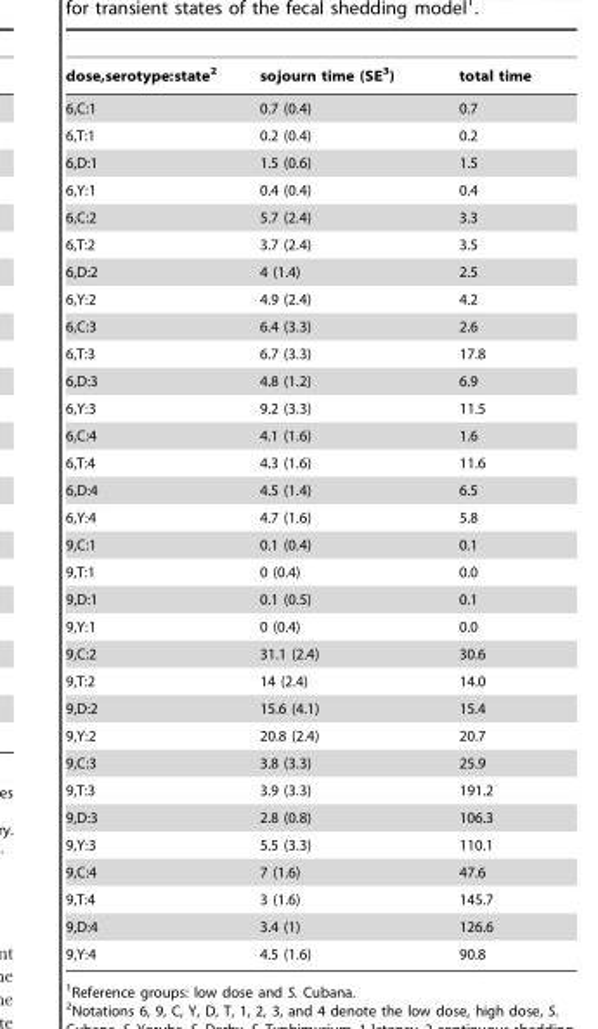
<table><thead><tr><td>dose,serotype:state<sup>2</sup></td><td>sojourn time (SE<sup>3</sup>)</td><td>total time</td></tr></thead><tbody><tr><td>6,C:1</td><td>0.7 (0.4)</td><td>0.7</td></tr><tr><td>6,T:1</td><td>0.2 (0.4)</td><td>0.2</td></tr><tr><td>6,D:1</td><td>1.5 (0.6)</td><td>1.5</td></tr><tr><td>6,Y:1</td><td>0.4 (0.4)</td><td>0.4</td></tr><tr><td>6,C:2</td><td>5.7 (2.4)</td><td>3.3</td></tr><tr><td>6,T:2</td><td>3.7 (2.4)</td><td>3.5</td></tr><tr><td>6,D:2</td><td>4 (1.4)</td><td>2.5</td></tr><tr><td>6,Y:2</td><td>4.9 (2.4)</td><td>4.2</td></tr><tr><td>6,C:3</td><td>6.4 (3.3)</td><td>2.6</td></tr><tr><td>6,T:3</td><td>6.7 (3.3)</td><td>17.8</td></tr><tr><td>6,D:3</td><td>4.8 (1.2)</td><td>6.9</td></tr><tr><td>6,Y:3</td><td>9.2 (3.3)</td><td>11.5</td></tr><tr><td>6,C:4</td><td>4.1 (1.6)</td><td>1.6</td></tr><tr><td>6,T:4</td><td>4.3 (1.6)</td><td>11.6</td></tr><tr><td>6,D:4</td><td>4.5 (1.4)</td><td>6.5</td></tr><tr><td>6,Y:4</td><td>4.7 (1.6)</td><td>5.8</td></tr><tr><td>9,C:1</td><td>0.1 (0.4)</td><td>0.1</td></tr><tr><td>9,T:1</td><td>0 (0.4)</td><td>0.0</td></tr><tr><td>9,D:1</td><td>0.1 (0.5)</td><td>0.1</td></tr><tr><td>9,Y:1</td><td>0 (0.4)</td><td>0.0</td></tr><tr><td>9,C:2</td><td>31.1 (2.4)</td><td>30.6</td></tr><tr><td>9,T:2</td><td>14 (2.4)</td><td>14.0</td></tr><tr><td>9,D:2</td><td>15.6 (4.1)</td><td>15.4</td></tr><tr><td>9,Y:2</td><td>20.8 (2.4)</td><td>20.7</td></tr><tr><td>9,C:3</td><td>3.8 (3.3)</td><td>25.9</td></tr><tr><td>9,T:3</td><td>3.9 (3.3)</td><td>191.2</td></tr><tr><td>9,D:3</td><td>2.8 (0.8)</td><td>106.3</td></tr><tr><td>9,Y:3</td><td>5.5 (3.3)</td><td>110.1</td></tr><tr><td>9,C:4</td><td>7 (1.6)</td><td>47.6</td></tr><tr><td>9,T:4</td><td>3 (1.6)</td><td>145.7</td></tr><tr><td>9,D:4</td><td>3.4 (1)</td><td>126.6</td></tr><tr><td>9,Y:4</td><td>4.5 (1.6)</td><td>90.8</td></tr></tbody></table>